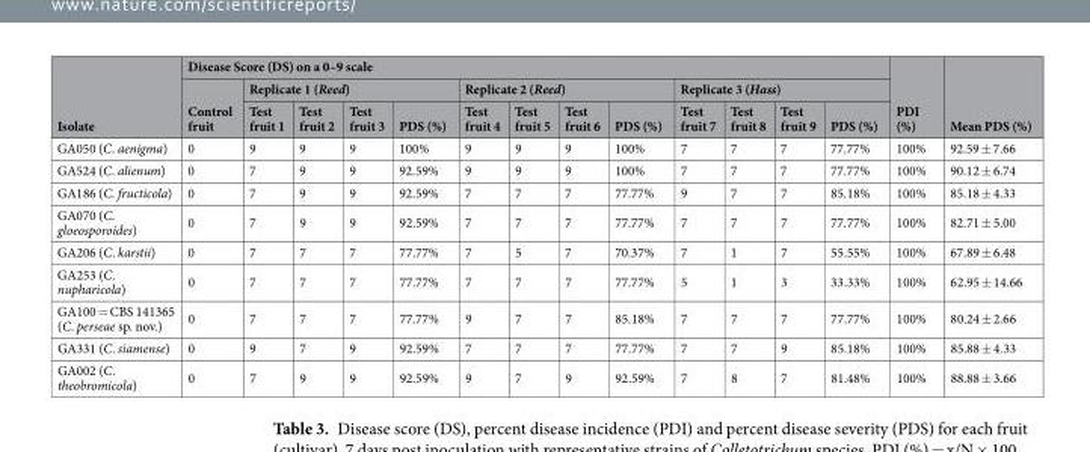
<table><thead><tr><td rowspan="3">Isolate</td><td colspan="13">Disease Score (DS) on a 0–9 scale</td><td rowspan="3">PDI (%)</td><td rowspan="3">Mean PDS (%)</td></tr><tr><td rowspan="2">Control fruit</td><td colspan="4">Replicate 1 (Reed)</td><td colspan="4">Replicate 2 (Reed)</td><td colspan="4">Replicate 3 (Hass)</td></tr><tr><td>Test fruit 1</td><td>Test fruit 2</td><td>Test fruit 3</td><td>PDS (%)</td><td>Test fruit 4</td><td>Test fruit 5</td><td>Test fruit 6</td><td>PDS (%)</td><td>Test fruit 7</td><td>Test fruit 8</td><td>Test fruit 9</td><td>PDS (%)</td></tr></thead><tbody><tr><td>GA050 (C. aenigma)</td><td>0</td><td>9</td><td>9</td><td>9</td><td>100%</td><td>9</td><td>9</td><td>9</td><td>100%</td><td>7</td><td>7</td><td>7</td><td>77.77%</td><td>100%</td><td>92.59 ± 7.66</td></tr><tr><td>GA524 (C. alienum)</td><td>0</td><td>7</td><td>9</td><td>9</td><td>92.59%</td><td>9</td><td>9</td><td>9</td><td>100%</td><td>7</td><td>7</td><td>7</td><td>77.77%</td><td>100%</td><td>90.12 ± 6.74</td></tr><tr><td>GA186 (C. fructicola)</td><td>0</td><td>7</td><td>9</td><td>9</td><td>92.59%</td><td>7</td><td>7</td><td>7</td><td>77.77%</td><td>9</td><td>7</td><td>7</td><td>85.18%</td><td>100%</td><td>85.18 ± 4.33</td></tr><tr><td>GA070 (C. gloeosporoides)</td><td>0</td><td>7</td><td>9</td><td>9</td><td>92.59%</td><td>7</td><td>7</td><td>7</td><td>77.77%</td><td>7</td><td>7</td><td>7</td><td>77.77%</td><td>100%</td><td>82.71 ± 5.00</td></tr><tr><td>GA206 (C. karstii)</td><td>0</td><td>7</td><td>7</td><td>7</td><td>77.77%</td><td>7</td><td>5</td><td>7</td><td>70.37%</td><td>7</td><td>1</td><td>7</td><td>55.55%</td><td>100%</td><td>67.89 ± 6.48</td></tr><tr><td>GA253 (C. nupharicola)</td><td>0</td><td>7</td><td>7</td><td>7</td><td>77.77%</td><td>7</td><td>7</td><td>7</td><td>77.77%</td><td>5</td><td>1</td><td>3</td><td>33.33%</td><td>100%</td><td>62.95 ± 14.66</td></tr><tr><td>GA100 = CBS 141365 (C. perseae sp. nov.)</td><td>0</td><td>7</td><td>7</td><td>7</td><td>77.77%</td><td>9</td><td>7</td><td>7</td><td>85.18%</td><td>7</td><td>7</td><td>7</td><td>77.77%</td><td>100%</td><td>80.24 ± 2.66</td></tr><tr><td>GA331 (C. siamense)</td><td>0</td><td>9</td><td>7</td><td>9</td><td>92.59%</td><td>7</td><td>7</td><td>7</td><td>77.77%</td><td>7</td><td>7</td><td>9</td><td>85.18%</td><td>100%</td><td>85.88 ± 4.33</td></tr><tr><td>GA002 (C. theobromicola)</td><td>0</td><td>7</td><td>9</td><td>9</td><td>92.59%</td><td>9</td><td>7</td><td>9</td><td>92.59%</td><td>7</td><td>8</td><td>7</td><td>81.48%</td><td>100%</td><td>88.88 ± 3.66</td></tr></tbody></table>